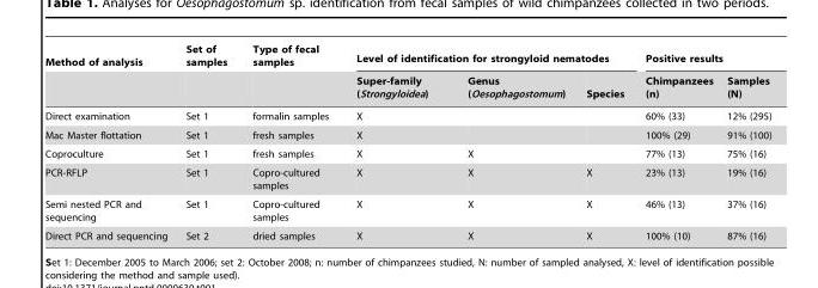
<table><thead><tr><td rowspan="2">Method of analysis</td><td rowspan="2">Set of samples</td><td rowspan="2">Type of fecal samples</td><td colspan="3">Level of identification for strongyloid nematodes</td><td colspan="2">Positive results</td></tr><tr><td>Super-family (Strongyloidea)</td><td>Genus (Oesophagostomum)</td><td>Species</td><td>Chimpanzees (n)</td><td>Samples (N)</td></tr></thead><tbody><tr><td>Direct examination</td><td>Set 1</td><td>formalin samples</td><td>X</td><td></td><td></td><td>60% (33)</td><td>12% (295)</td></tr><tr><td>Mac Master flottation</td><td>Set 1</td><td>fresh samples</td><td>X</td><td></td><td></td><td>100% (29)</td><td>91% (100)</td></tr><tr><td>Coproculture</td><td>Set 1</td><td>fresh samples</td><td>X</td><td>X</td><td></td><td>77% (13)</td><td>75% (16)</td></tr><tr><td>PCR-RFLP</td><td>Set 1</td><td>Copro-cultured samples</td><td>X</td><td>X</td><td>X</td><td>23% (13)</td><td>19% (16)</td></tr><tr><td>Semi nested PCR and sequencing</td><td>Set 1</td><td>Copro-cultured samples</td><td>X</td><td>X</td><td>X</td><td>46% (13)</td><td>37% (16)</td></tr><tr><td>Direct PCR and sequencing</td><td>Set 2</td><td>dried samples</td><td>X</td><td>X</td><td>X</td><td>100% (10)</td><td>87% (16)</td></tr></tbody></table>